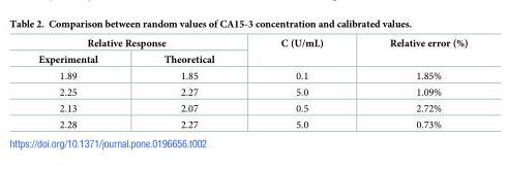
<table><thead><tr><td colspan="2">Relative Response</td><td rowspan="2">C (U/mL)</td><td rowspan="2">Relative error (%)</td></tr><tr><td>Experimental</td><td>Theoretical</td></tr></thead><tbody><tr><td>1.89</td><td>1.85</td><td>0.1</td><td>1.85%</td></tr><tr><td>2.25</td><td>2.27</td><td>5.0</td><td>1.09%</td></tr><tr><td>2.13</td><td>2.07</td><td>0.5</td><td>2.72%</td></tr><tr><td>2.28</td><td>2.27</td><td>5.0</td><td>0.73%</td></tr></tbody></table>